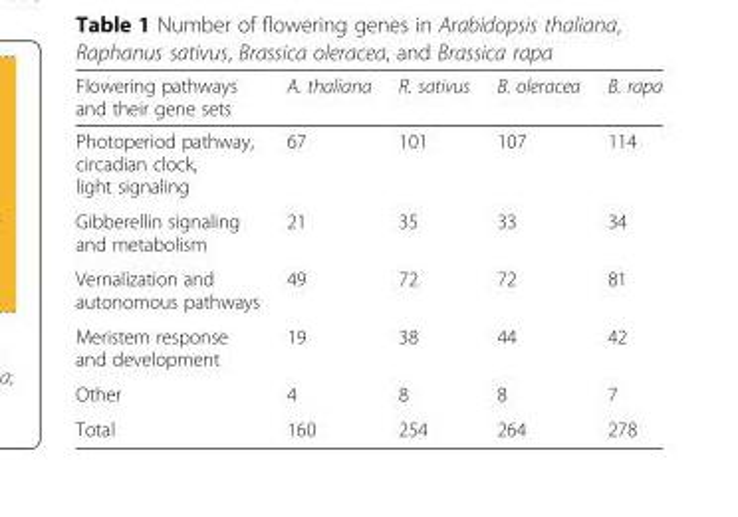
<table><thead><tr><td>Flowering pathways and their gene sets</td><td>A. thaliana</td><td>R. sativus</td><td>B. oleracea</td><td>B. rapa</td></tr></thead><tbody><tr><td>Photoperiod pathway, circadian clock, light signaling</td><td>67</td><td>101</td><td>107</td><td>114</td></tr><tr><td>Gibberellin signaling and metabolism</td><td>21</td><td>35</td><td>33</td><td>34</td></tr><tr><td>Vernalization and autonomous pathways</td><td>49</td><td>72</td><td>72</td><td>81</td></tr><tr><td>Meristem response and development</td><td>19</td><td>38</td><td>44</td><td>42</td></tr><tr><td>Other</td><td>4</td><td>8</td><td>8</td><td>7</td></tr><tr><td>Total</td><td>160</td><td>254</td><td>264</td><td>278</td></tr></tbody></table>